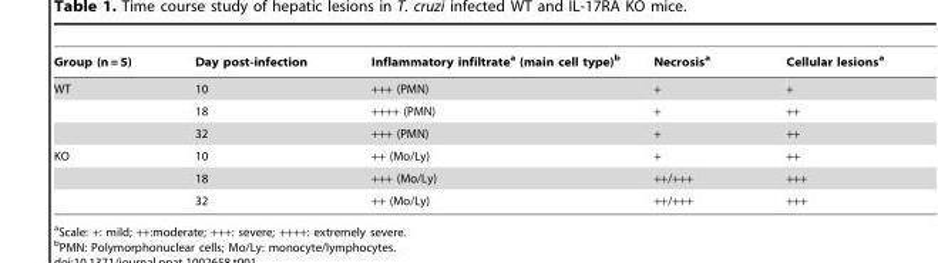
<table><thead><tr><td>Group (n = 5)</td><td>Day post-infection</td><td>Inflammatory infiltrate<sup>a</sup> (main cell type)<sup>b</sup></td><td>Necrosis<sup>a</sup></td><td>Cellular lesions<sup>a</sup></td></tr></thead><tbody><tr><td rowspan="3">WT</td><td>10</td><td>+++ (PMN)</td><td>+</td><td>+</td></tr><tr><td>18</td><td>++++ (PMN)</td><td>+</td><td>++</td></tr><tr><td>32</td><td>+++ (PMN)</td><td>+</td><td>++</td></tr><tr><td rowspan="3">KO</td><td>10</td><td>++ (Mo/Ly)</td><td>+</td><td>++</td></tr><tr><td>18</td><td>+++ (Mo/Ly)</td><td>++/+++</td><td>+++</td></tr><tr><td>32</td><td>++ (Mo/Ly)</td><td>++/+++</td><td>+++</td></tr></tbody></table>